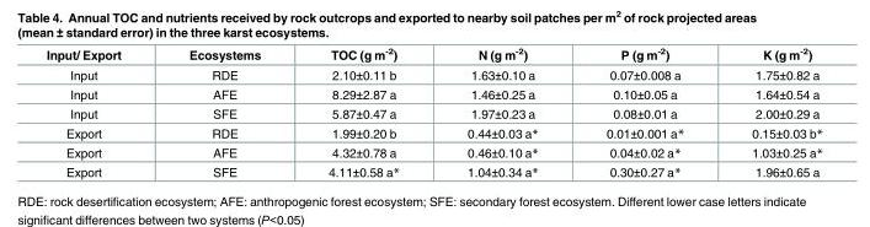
<table><thead><tr><td>Input/ Export</td><td>Ecosystems</td><td>TOC (g m<sup>-2</sup>)</td><td>N (g m<sup>-2</sup>)</td><td>P (g m<sup>-2</sup>)</td><td>K (g m<sup>-2</sup>)</td></tr></thead><tbody><tr><td>Input</td><td>RDE</td><td>2.10±0.11 b</td><td>1.63±0.10 a</td><td>0.07±0.008 a</td><td>1.75±0.82 a</td></tr><tr><td>Input</td><td>AFE</td><td>8.29±2.87 a</td><td>1.46±0.25 a</td><td>0.10±0.05 a</td><td>1.64±0.54 a</td></tr><tr><td>Input</td><td>SFE</td><td>5.87±0.47 a</td><td>1.97±0.23 a</td><td>0.08±0.01 a</td><td>2.00±0.29 a</td></tr><tr><td>Export</td><td>RDE</td><td>1.99±0.20 b</td><td>0.44±0.03 a*</td><td>0.01±0.001 a*</td><td>0.15±0.03 b*</td></tr><tr><td>Export</td><td>AFE</td><td>4.32±0.78 a</td><td>0.46±0.10 a*</td><td>0.04±0.02 a*</td><td>1.03±0.25 a*</td></tr><tr><td>Export</td><td>SFE</td><td>4.11±0.58 a*</td><td>1.04±0.34 a*</td><td>0.30±0.27 a*</td><td>1.96±0.65 a</td></tr></tbody></table>